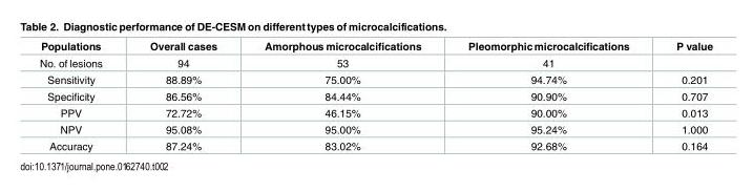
<table><thead><tr><td>Populations</td><td>Overall cases</td><td>Amorphous microcalcifications</td><td>Pleomorphic microcalcifications</td><td>P value</td></tr></thead><tbody><tr><td>No. of lesions</td><td>94</td><td>53</td><td>41</td><td></td></tr><tr><td>Sensitivity</td><td>88.89%</td><td>75.00%</td><td>94.74%</td><td>0.201</td></tr><tr><td>Specificity</td><td>86.56%</td><td>84.44%</td><td>90.90%</td><td>0.707</td></tr><tr><td>PPV</td><td>72.72%</td><td>46.15%</td><td>90.00%</td><td>0.013</td></tr><tr><td>NPV</td><td>95.08%</td><td>95.00%</td><td>95.24%</td><td>1.000</td></tr><tr><td>Accuracy</td><td>87.24%</td><td>83.02%</td><td>92.68%</td><td>0.164</td></tr></tbody></table>